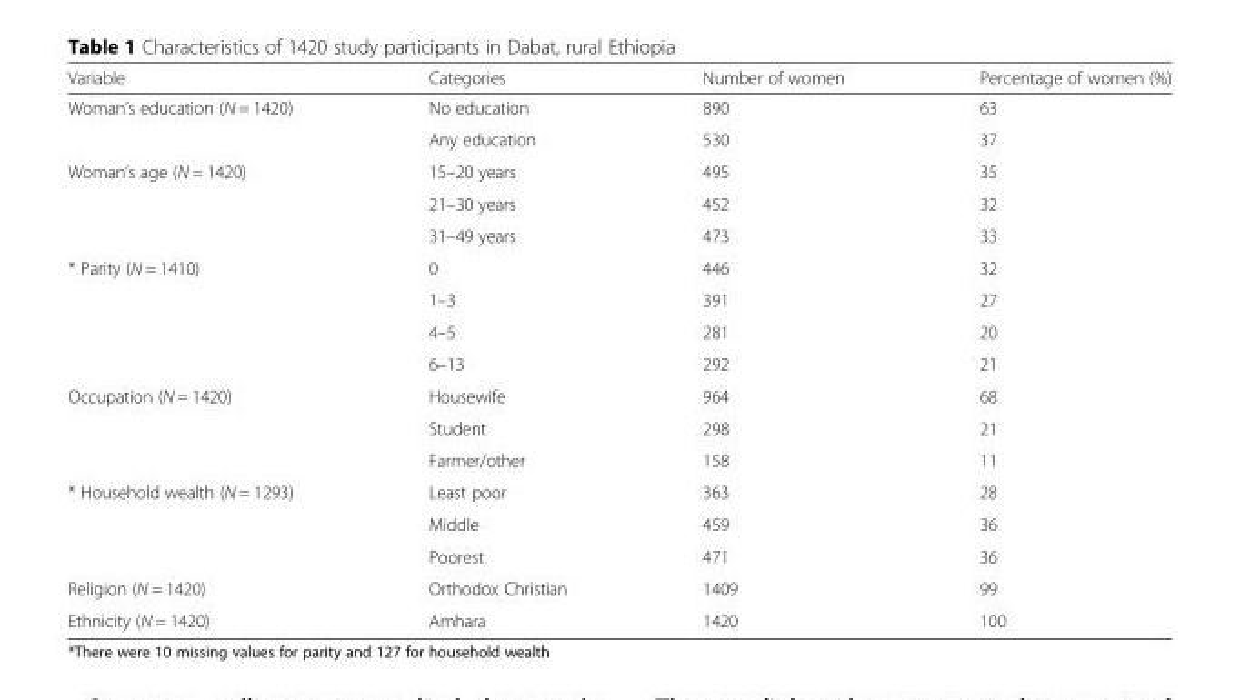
<table><thead><tr><td>Variable</td><td>Categories</td><td>Number of women</td><td>Percentage of women (%)</td></tr></thead><tbody><tr><td rowspan="2">Woman’s education (N = 1420)</td><td>No education</td><td>890</td><td>63</td></tr><tr><td>Any education</td><td>530</td><td>37</td></tr><tr><td rowspan="3">Woman’s age (N = 1420)</td><td>15–20 years</td><td>495</td><td>35</td></tr><tr><td>21–30 years</td><td>452</td><td>32</td></tr><tr><td>31–49 years</td><td>473</td><td>33</td></tr><tr><td rowspan="4">* Parity (N = 1410)</td><td>0</td><td>446</td><td>32</td></tr><tr><td>1–3</td><td>391</td><td>27</td></tr><tr><td>4–5</td><td>281</td><td>20</td></tr><tr><td>6–13</td><td>292</td><td>21</td></tr><tr><td rowspan="3">Occupation (N = 1420)</td><td>Housewife</td><td>964</td><td>68</td></tr><tr><td>Student</td><td>298</td><td>21</td></tr><tr><td>Farmer/other</td><td>158</td><td>11</td></tr><tr><td rowspan="3">* Household wealth (N = 1293)</td><td>Least poor</td><td>363</td><td>28</td></tr><tr><td>Middle</td><td>459</td><td>36</td></tr><tr><td>Poorest</td><td>471</td><td>36</td></tr><tr><td>Religion (N = 1420)</td><td>Orthodox Christian</td><td>1409</td><td>99</td></tr><tr><td>Ethnicity (N = 1420)</td><td>Amhara</td><td>1420</td><td>100</td></tr></tbody></table>